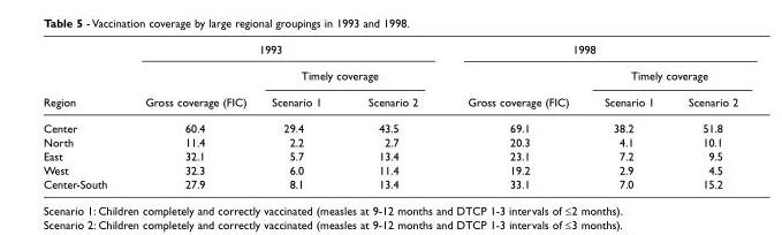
<table><thead><tr><td rowspan="3">Region</td><td colspan="3">1993</td><td colspan="3">1998</td></tr><tr><td rowspan="2">Gross coverage (FIC)</td><td colspan="2">Timely coverage</td><td rowspan="2">Gross coverage (FIC)</td><td colspan="2">Timely coverage</td></tr><tr><td>Scenario 1</td><td>Scenario 2</td><td>Scenario 1</td><td>Scenario 2</td></tr></thead><tbody><tr><td>Center</td><td>60.4</td><td>29.4</td><td>43.5</td><td>69.1</td><td>38.2</td><td>51.8</td></tr><tr><td>North</td><td>11.4</td><td>2.2</td><td>2.7</td><td>20.3</td><td>4.1</td><td>10.1</td></tr><tr><td>East</td><td>32.1</td><td>5.7</td><td>13.4</td><td>23.1</td><td>7.2</td><td>9.5</td></tr><tr><td>West</td><td>32.3</td><td>6.0</td><td>11.4</td><td>19.2</td><td>2.9</td><td>4.5</td></tr><tr><td>Center-South</td><td>27.9</td><td>8.1</td><td>13.4</td><td>33.1</td><td>7.0</td><td>15.2</td></tr></tbody></table>